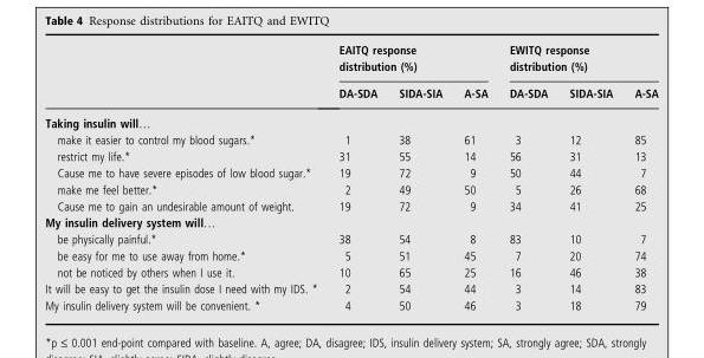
<table><thead><tr><td rowspan="2"></td><td colspan="3">EAITQ response distribution (%)</td><td colspan="3">EWITQ response distribution (%)</td></tr><tr><td>DA-SDA</td><td>SIDA-SIA</td><td>A-SA</td><td>DA-SDA</td><td>SIDA-SIA</td><td>A-SA</td></tr></thead><tbody><tr><td colspan="7">Taking insulin will…</td></tr><tr><td>make it easier to control my blood sugars.*</td><td>1</td><td>38</td><td>61</td><td>3</td><td>12</td><td>85</td></tr><tr><td>restrict my life.*</td><td>31</td><td>55</td><td>14</td><td>56</td><td>31</td><td>13</td></tr><tr><td>Cause me to have severe episodes of low blood sugar.*</td><td>19</td><td>72</td><td>9</td><td>50</td><td>44</td><td>7</td></tr><tr><td>make me feel better.*</td><td>2</td><td>49</td><td>50</td><td>5</td><td>26</td><td>68</td></tr><tr><td>Cause me to gain an undesirable amount of weight.</td><td>19</td><td>72</td><td>9</td><td>34</td><td>41</td><td>25</td></tr><tr><td colspan="7">My insulin delivery system will…</td></tr><tr><td>be physically painful.*</td><td>38</td><td>54</td><td>8</td><td>83</td><td>10</td><td>7</td></tr><tr><td>be easy for me to use away from home.*</td><td>5</td><td>51</td><td>45</td><td>7</td><td>20</td><td>74</td></tr><tr><td>not be noticed by others when I use it.</td><td>10</td><td>65</td><td>25</td><td>16</td><td>46</td><td>38</td></tr><tr><td>It will be easy to get the insulin dose I need with my IDS. *</td><td>2</td><td>54</td><td>44</td><td>3</td><td>14</td><td>83</td></tr><tr><td>My insulin delivery system will be convenient. *</td><td>4</td><td>50</td><td>46</td><td>3</td><td>18</td><td>79</td></tr></tbody></table>